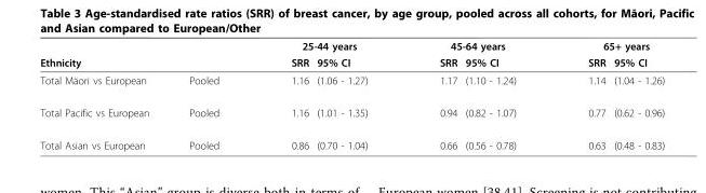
<table><thead><tr><td rowspan="2">Ethnicity</td><td rowspan="2"></td><td colspan="2">25-44 years</td><td colspan="2">45-64 years</td><td colspan="2">65+ years</td></tr><tr><td>SRR</td><td>95% CI</td><td>SRR</td><td>95% CI</td><td>SRR</td><td>95% CI</td></tr></thead><tbody><tr><td>Total Mäori vs European</td><td>Pooled</td><td>1.16</td><td>(1.06 - 1.27)</td><td>1.17</td><td>(1.10 - 1.24)</td><td>1.14</td><td>(1.04 - 1.26)</td></tr><tr><td>Total Pacific vs European</td><td>Pooled</td><td>1.16</td><td>(1.01 - 1.35)</td><td>0.94</td><td>(0.82 - 1.07)</td><td>0.77</td><td>(0.62 - 0.96)</td></tr><tr><td>Total Asian vs European</td><td>Pooled</td><td>0.86</td><td>(0.70 - 1.04)</td><td>0.66</td><td>(0.56 - 0.78)</td><td>0.63</td><td>(0.48 - 0.83)</td></tr></tbody></table>